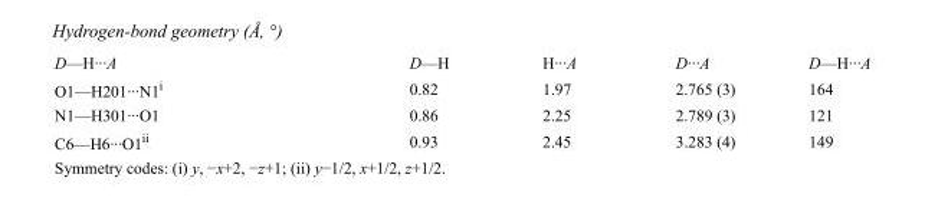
<table><tbody><tr><td>D—H···A</td><td>D—H</td><td>H···A</td><td>D···A</td><td>D—H···A</td></tr><tr><td>O1—H201···N1<sup>i</sup></td><td>0.82</td><td>1.97</td><td>2.765 (3)</td><td>164</td></tr><tr><td>N1—H301···O1</td><td>0.86</td><td>2.25</td><td>2.789 (3)</td><td>121</td></tr><tr><td>C6—H6···O1<sup>ii</sup></td><td>0.93</td><td>2.45</td><td>3.283 (4)</td><td>149</td></tr></tbody></table>